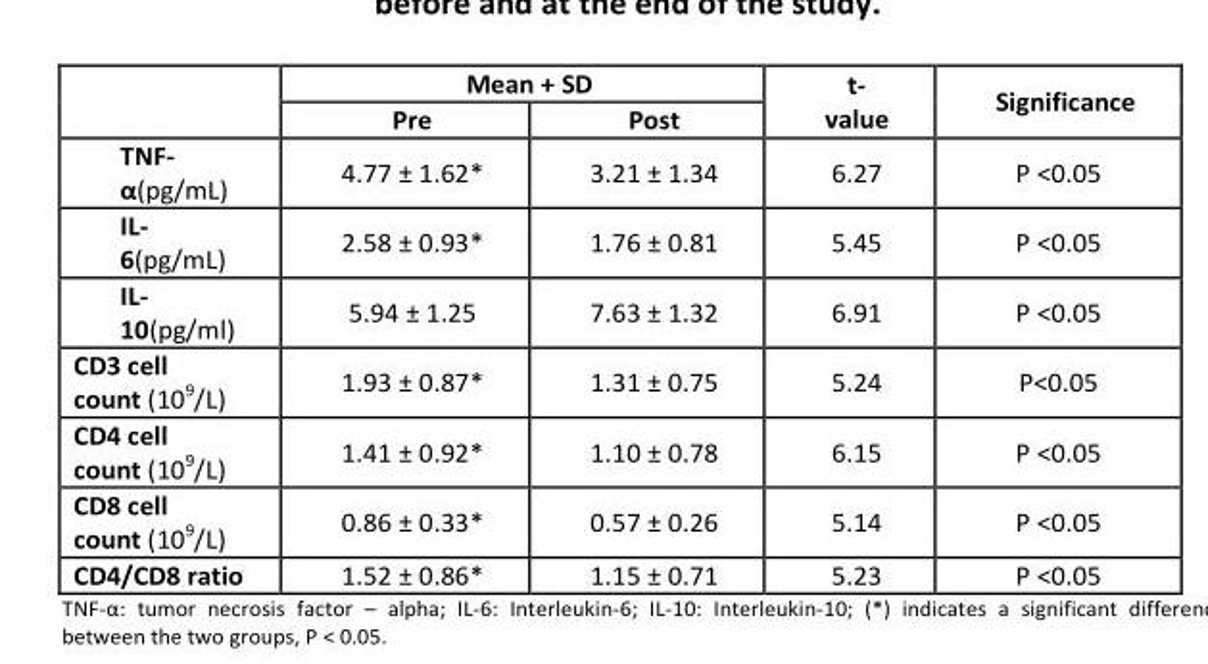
<table><thead><tr><td rowspan="2"></td><td colspan="2">Mean + SD</td><td rowspan="2">t- value</td><td rowspan="2">Significance</td></tr><tr><td>Pre</td><td>Post</td></tr></thead><tbody><tr><td>TNF- α(pg/mL)</td><td>4.77 ± 1.62*</td><td>3.21 ± 1.34</td><td>6.27</td><td>P &lt;0.05</td></tr><tr><td>IL- 6(pg/mL)</td><td>2.58 ± 0.93*</td><td>1.76 ± 0.81</td><td>5.45</td><td>P &lt;0.05</td></tr><tr><td>IL- 10(pg/ml)</td><td>5.94 ± 1.25</td><td>7.63 ± 1.32</td><td>6.91</td><td>P &lt;0.05</td></tr><tr><td>CD3 cell count (10<sup>9</sup>/L)</td><td>1.93 ± 0.87*</td><td>1.31 ± 0.75</td><td>5.24</td><td>P&lt;0.05</td></tr><tr><td>CD4 cell count (10<sup>9</sup>/L)</td><td>1.41 ± 0.92*</td><td>1.10 ± 0.78</td><td>6.15</td><td>P &lt;0.05</td></tr><tr><td>CD8 cell count (10<sup>9</sup>/L)</td><td>0.86 ± 0.33*</td><td>0.57 ± 0.26</td><td>5.14</td><td>P &lt;0.05</td></tr><tr><td>CD4/CD8 ratio</td><td>1.52 ± 0.86*</td><td>1.15 ± 0.71</td><td>5.23</td><td>P &lt;0.05</td></tr></tbody></table>